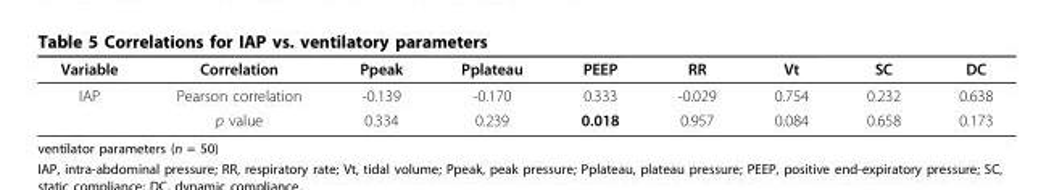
<table><thead><tr><td>Variable</td><td>Correlation</td><td>Ppeak</td><td>Pplateau</td><td>PEEP</td><td>RR</td><td>Vt</td><td>SC</td><td>DC</td></tr></thead><tbody><tr><td rowspan="2">IAP</td><td>Pearson correlation</td><td>-0.139</td><td>-0.170</td><td>0.333</td><td>-0.029</td><td>0.754</td><td>0.232</td><td>0.638</td></tr><tr><td>p value</td><td>0.334</td><td>0.239</td><td>0.018</td><td>0.957</td><td>0.084</td><td>0.658</td><td>0.173</td></tr></tbody></table>